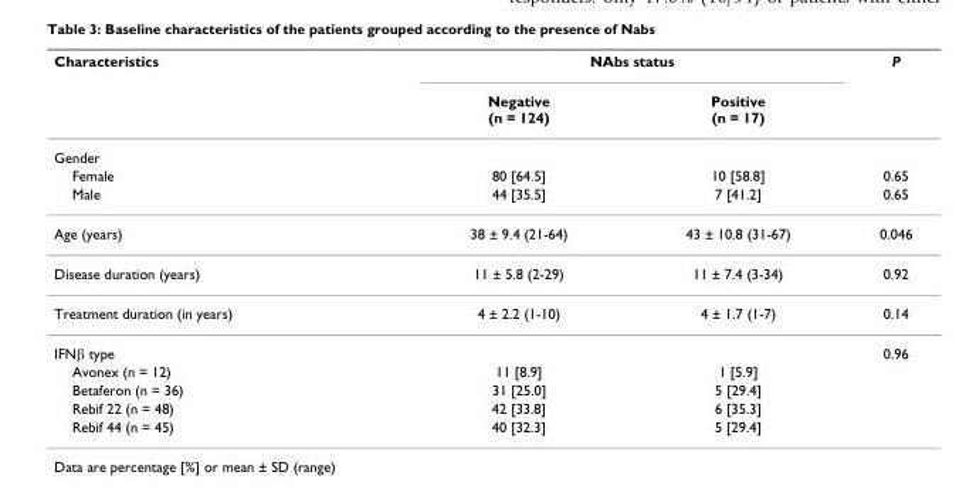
<table><thead><tr><td rowspan="2">Characteristics</td><td colspan="2">NAbs status</td><td rowspan="2">P</td></tr><tr><td>Negative (n = 124)</td><td>Positive (n = 17)</td></tr></thead><tbody><tr><td colspan="4">Gender</td></tr><tr><td>Female</td><td>80 [64.5]</td><td>10 [58.8]</td><td>0.65</td></tr><tr><td>Male</td><td>44 [35.5]</td><td>7 [41.2]</td><td>0.65</td></tr><tr><td>Age (years)</td><td>38 ± 9.4 (21-64)</td><td>43 ± 10.8 (31-67)</td><td>0.046</td></tr><tr><td>Disease duration (years)</td><td>11 ± 5.8 (2-29)</td><td>11 ± 7.4 (3-34)</td><td>0.92</td></tr><tr><td>Treatment duration (in years)</td><td>4 ± 2.2 (1-10)</td><td>4 ± 1.7 (1-7)</td><td>0.14</td></tr><tr><td>IFNβ type</td><td></td><td></td><td>0.96</td></tr><tr><td>Avonex (n = 12)</td><td>11 [8.9]</td><td>1 [5.9]</td><td></td></tr><tr><td>Betaferon (n = 36)</td><td>31 [25.0]</td><td>5 [29.4]</td><td></td></tr><tr><td>Rebif 22 (n = 48)</td><td>42 [33.8]</td><td>6 [35.3]</td><td></td></tr><tr><td>Rebif 44 (n = 45)</td><td>40 [32.3]</td><td>5 [29.4]</td><td></td></tr></tbody></table>